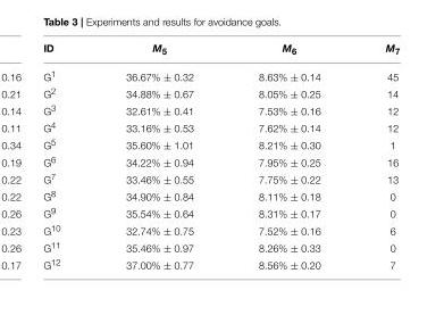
<table><thead><tr><td>ID</td><td>M<sub>5</sub></td><td>M<sub>6</sub></td><td>M<sub>7</sub></td></tr></thead><tbody><tr><td>G<sup>1</sup></td><td>36.67% ± 0.32</td><td>8.63% ± 0.14</td><td>45</td></tr><tr><td>G<sup>2</sup></td><td>34.88% ± 0.67</td><td>8.05% ± 0.25</td><td>14</td></tr><tr><td>G<sup>3</sup></td><td>32.61% ± 0.41</td><td>7.53% ± 0.16</td><td>12</td></tr><tr><td>G<sup>4</sup></td><td>33.16% ± 0.53</td><td>7.62% ± 0.14</td><td>12</td></tr><tr><td>G<sup>5</sup></td><td>35.60% ± 1.01</td><td>8.21% ± 0.30</td><td>1</td></tr><tr><td>G<sup>6</sup></td><td>34.22% ± 0.94</td><td>7.95% ± 0.25</td><td>16</td></tr><tr><td>G<sup>7</sup></td><td>33.46% ± 0.55</td><td>7.75% ± 0.22</td><td>13</td></tr><tr><td>G<sup>8</sup></td><td>34.90% ± 0.84</td><td>8.11% ± 0.18</td><td>0</td></tr><tr><td>G<sup>9</sup></td><td>35.54% ± 0.64</td><td>8.31% ± 0.17</td><td>0</td></tr><tr><td>G<sup>10</sup></td><td>32.74% ± 0.75</td><td>7.52% ± 0.16</td><td>6</td></tr><tr><td>G<sup>11</sup></td><td>35.46% ± 0.97</td><td>8.26% ± 0.33</td><td>0</td></tr><tr><td>G<sup>12</sup></td><td>37.00% ± 0.77</td><td>8.56% ± 0.20</td><td>7</td></tr></tbody></table>